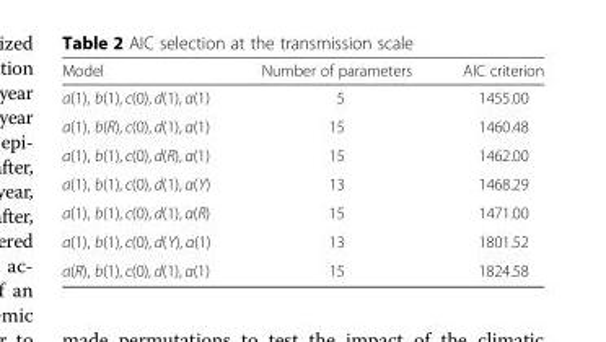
<table><thead><tr><td>Model</td><td>Number of parameters</td><td>AIC criterion</td></tr></thead><tbody><tr><td>a(1), b(1), c(0), d(1), α(1)</td><td>5</td><td>1455.00</td></tr><tr><td>a(1), b(R), c(0), d(1), α(1)</td><td>15</td><td>1460.48</td></tr><tr><td>a(1), b(1), c(0), d(R), α(1)</td><td>15</td><td>1462.00</td></tr><tr><td>a(1), b(1), c(0), d(1), α(Y)</td><td>13</td><td>1468.29</td></tr><tr><td>a(1), b(1), c(0), d(1), α(R)</td><td>15</td><td>1471.00</td></tr><tr><td>a(1), b(1), c(0), d(Y), α(1)</td><td>13</td><td>1801.52</td></tr><tr><td>a(R), b(1), c(0), d(1), α(1)</td><td>15</td><td>1824.58</td></tr></tbody></table>